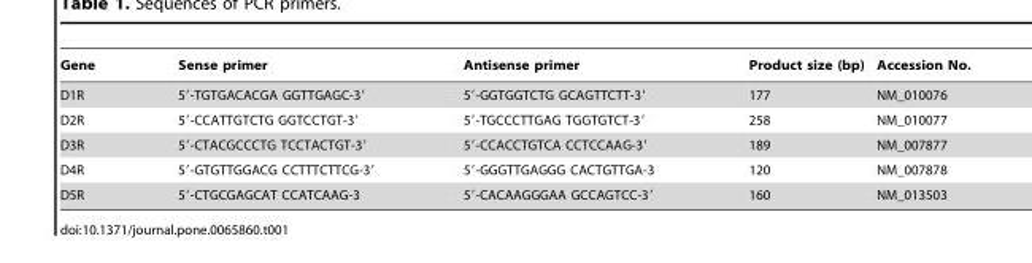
<table><thead><tr><td>Gene</td><td>Sense primer</td><td>Antisense primer</td><td>Product size (bp)</td><td>Accession No.</td></tr></thead><tbody><tr><td>D1R</td><td>5′-TGTGACACGA GGTTGAGC-3′</td><td>5′-GGTGGTCTG GCAGTTCTT-3′</td><td>177</td><td>NM_010076</td></tr><tr><td>D2R</td><td>5′-CCATTGTCTG GGTCCTGT-3′</td><td>5′-TGCCCTTGAG TGGTGTCT-3′</td><td>258</td><td>NM_010077</td></tr><tr><td>D3R</td><td>5′-CTACGCCCTG TCCTACTGT-3′</td><td>5′-CCACCTGTCA CCTCCAAG-3′</td><td>189</td><td>NM_007877</td></tr><tr><td>D4R</td><td>5′-GTGTTGGACG CCTTTCTTCG-3′</td><td>5′-GGGTTGAGGG CACTGTTGA-3</td><td>120</td><td>NM_007878</td></tr><tr><td>D5R</td><td>5′-CTGCGAGCAT CCATCAAG-3</td><td>5′-CACAAGGGAA GCCAGTCC-3′</td><td>160</td><td>NM_013503</td></tr></tbody></table>